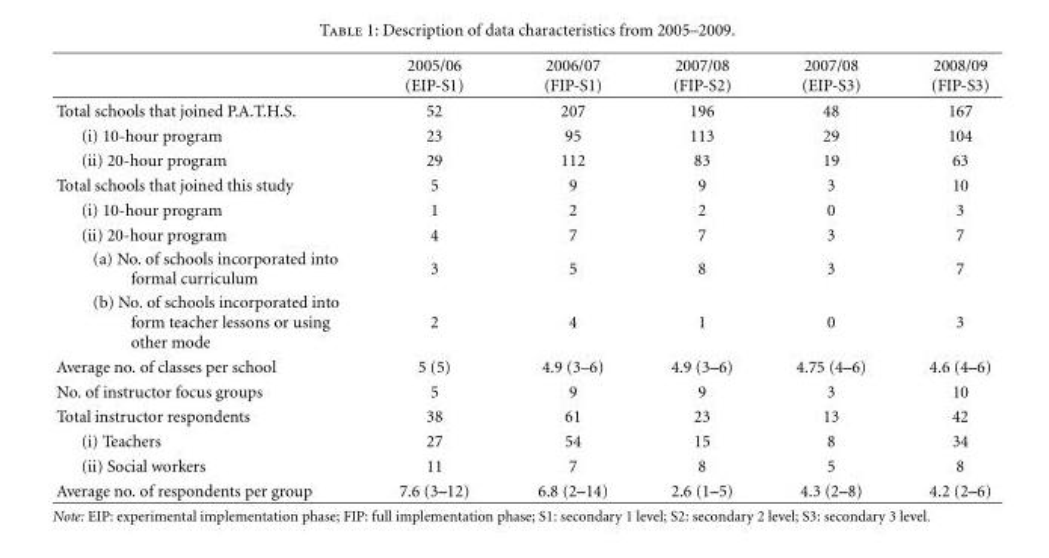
<table><thead><tr><td></td><td>2005/06 (EIP-S1)</td><td>2006/07 (FIP-S1)</td><td>2007/08 (FIP-S2)</td><td>2007/08 (EIP-S3)</td><td>2008/09 (FIP-S3)</td></tr></thead><tbody><tr><td>Total schools that joined P.A.T.H.S.</td><td>52</td><td>207</td><td>196</td><td>48</td><td>167</td></tr><tr><td>(i) 10-hour program</td><td>23</td><td>95</td><td>113</td><td>29</td><td>104</td></tr><tr><td>(ii) 20-hour program</td><td>29</td><td>112</td><td>83</td><td>19</td><td>63</td></tr><tr><td>Total schools that joined this study</td><td>5</td><td>9</td><td>9</td><td>3</td><td>10</td></tr><tr><td>(i) 10-hour program</td><td>1</td><td>2</td><td>2</td><td>0</td><td>3</td></tr><tr><td>(ii) 20-hour program</td><td>4</td><td>7</td><td>7</td><td>3</td><td>7</td></tr><tr><td>(a) No. of schools incorporated into formal curriculum</td><td>3</td><td>5</td><td>8</td><td>3</td><td>7</td></tr><tr><td>(b) No. of schools incorporated into form teacher lessons or using other mode</td><td>2</td><td>4</td><td>1</td><td>0</td><td>3</td></tr><tr><td>Average no. of classes per school</td><td>5 (5)</td><td>4.9 (3–6)</td><td>4.9 (3–6)</td><td>4.75 (4–6)</td><td>4.6 (4–6)</td></tr><tr><td>No. of instructor focus groups</td><td>5</td><td>9</td><td>9</td><td>3</td><td>10</td></tr><tr><td>Total instructor respondents</td><td>38</td><td>61</td><td>23</td><td>13</td><td>42</td></tr><tr><td>(i) Teachers</td><td>27</td><td>54</td><td>15</td><td>8</td><td>34</td></tr><tr><td>(ii) Social workers</td><td>11</td><td>7</td><td>8</td><td>5</td><td>8</td></tr><tr><td>Average no. of respondents per group</td><td>7.6 (3–12)</td><td>6.8 (2–14)</td><td>2.6 (1–5)</td><td>4.3 (2–8)</td><td>4.2 (2–6)</td></tr></tbody></table>